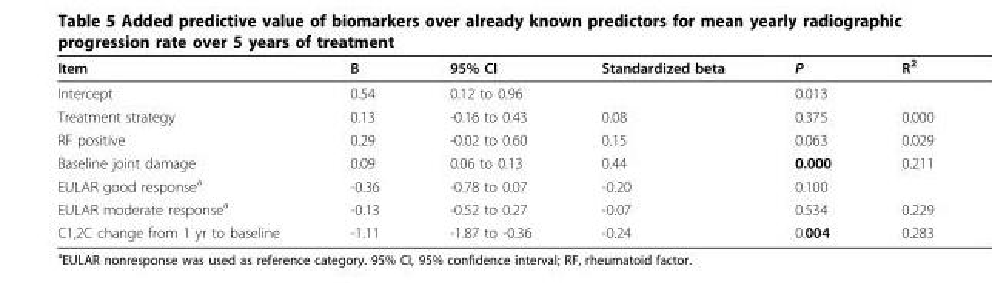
<table><thead><tr><td>Item</td><td>B</td><td>95% CI</td><td>Standardized beta</td><td>P</td><td>R<sup>2</sup></td></tr></thead><tbody><tr><td>Intercept</td><td>0.54</td><td>0.12 to 0.96</td><td></td><td>0.013</td><td></td></tr><tr><td>Treatment strategy</td><td>0.13</td><td>-0.16 to 0.43</td><td>0.08</td><td>0.375</td><td>0.000</td></tr><tr><td>RF positive</td><td>0.29</td><td>-0.02 to 0.60</td><td>0.15</td><td>0.063</td><td>0.029</td></tr><tr><td>Baseline joint damage</td><td>0.09</td><td>0.06 to 0.13</td><td>0.44</td><td>0.000</td><td>0.211</td></tr><tr><td>EULAR good response<sup>a</sup></td><td>-0.36</td><td>-0.78 to 0.07</td><td>-0.20</td><td>0.100</td><td></td></tr><tr><td>EULAR moderate response<sup>a</sup></td><td>-0.13</td><td>-0.52 to 0.27</td><td>-0.07</td><td>0.534</td><td>0.229</td></tr><tr><td>C1,2C change from 1 yr to baseline</td><td>-1.11</td><td>-1.87 to -0.36</td><td>-0.24</td><td>0.004</td><td>0.283</td></tr></tbody></table>